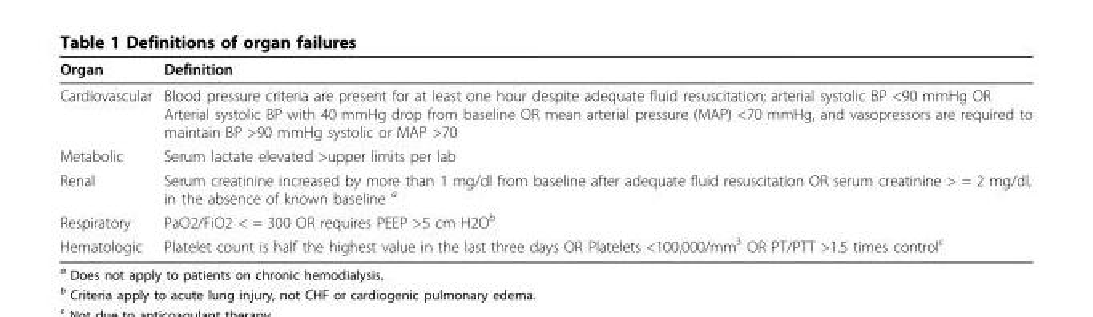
<table><thead><tr><td>Organ</td><td>Definition</td></tr></thead><tbody><tr><td>Cardiovascular</td><td>Blood pressure criteria are present for at least one hour despite adequate fluid resuscitation; arterial systolic BP &lt;90 mmHg OR Arterial systolic BP with 40 mmHg drop from baseline OR mean arterial pressure (MAP) &lt;70 mmHg, and vasopressors are required to maintain BP &gt;90 mmHg systolic or MAP &gt;70</td></tr><tr><td>Metabolic</td><td>Serum lactate elevated &gt;upper limits per lab</td></tr><tr><td>Renal</td><td>Serum creatinine increased by more than 1 mg/dl from baseline after adequate fluid resuscitation OR serum creatinine &gt; = 2 mg/dl, in the absence of known baseline <sup>a</sup></td></tr><tr><td>Respiratory</td><td>PaO2/FiO2 &lt; = 300 OR requires PEEP &gt;5 cm H2O<sup>b</sup></td></tr><tr><td>Hematologic</td><td>Platelet count is half the highest value in the last three days OR Platelets &lt;100,000/mm<sup>3</sup> OR PT/PTT &gt;1.5 times control<sup>c</sup></td></tr></tbody></table>